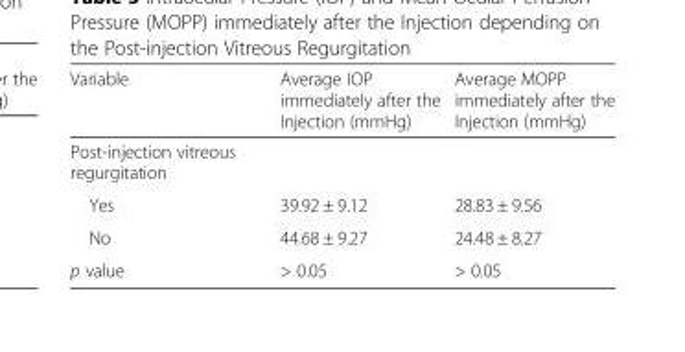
<table><thead><tr><td>Variable</td><td>Average IOP immediately after the Injection (mmHg)</td><td>Average MOPP immediately after the Injection (mmHg)</td></tr></thead><tbody><tr><td colspan="3">Post-injection vitreous regurgitation</td></tr><tr><td>Yes</td><td>39.92 ± 9.12</td><td>28.83 ± 9.56</td></tr><tr><td>No</td><td>44.68 ± 9.27</td><td>24.48 ± 8.27</td></tr><tr><td>p value</td><td>&gt; 0.05</td><td>&gt; 0.05</td></tr></tbody></table>